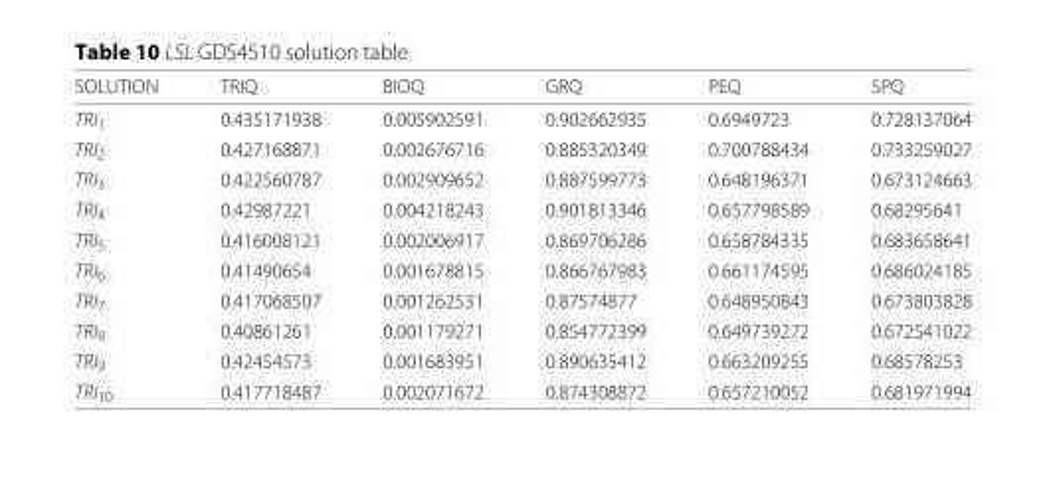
<table><thead><tr><td>SOLUTION</td><td>TRIQ</td><td>BIOQ</td><td>GRQ</td><td>PEQ</td><td>SPQ</td></tr></thead><tbody><tr><td>TRI<sub>1</sub></td><td>0.435171938</td><td>0.005902591</td><td>0.902662935</td><td>0.6949723</td><td>0.728137064</td></tr><tr><td>TRI<sub>2</sub></td><td>0.427168871</td><td>0.002676716</td><td>0.885320349</td><td>0.700788434</td><td>0.733259027</td></tr><tr><td>TRI<sub>3</sub></td><td>0.422560787</td><td>0.002909652</td><td>0.887599773</td><td>0.648196371</td><td>0.673124663</td></tr><tr><td>TRI<sub>4</sub></td><td>0.42987221</td><td>0.004218243</td><td>0.901813346</td><td>0.657798589</td><td>0.68295641</td></tr><tr><td>TRI<sub>5</sub></td><td>0.416008121</td><td>0.002006917</td><td>0.869706286</td><td>0.658784335</td><td>0.683658641</td></tr><tr><td>TRI<sub>6</sub></td><td>0.41490654</td><td>0.001678815</td><td>0.866767983</td><td>0.661174595</td><td>0.686024185</td></tr><tr><td>TRI<sub>7</sub></td><td>0.417068507</td><td>0.001262531</td><td>0.87574877</td><td>0.648950843</td><td>0.673803828</td></tr><tr><td>TRI<sub>8</sub></td><td>0.40861261</td><td>0.001179271</td><td>0.854772399</td><td>0.649739272</td><td>0.672541022</td></tr><tr><td>TRI<sub>9</sub></td><td>0.42454573</td><td>0.001683951</td><td>0.890635412</td><td>0.663209255</td><td>0.68578253</td></tr><tr><td>TRI<sub>10</sub></td><td>0.417718487</td><td>0.002071672</td><td>0.874308872</td><td>0.657210052</td><td>0.681971994</td></tr></tbody></table>